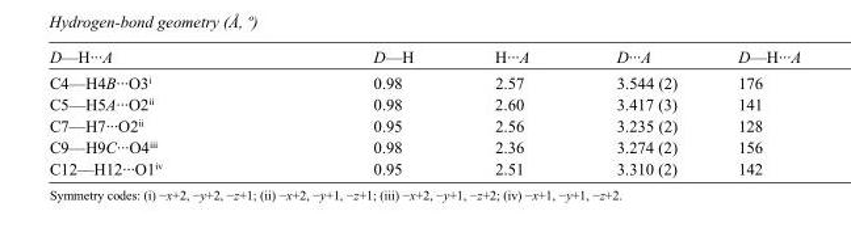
<table><tbody><tr><td>D—H···A</td><td>D—H</td><td>H···A</td><td>D···A</td><td>D—H···A</td></tr><tr><td>C4—H4B···O3<sup>i</sup></td><td>0.98</td><td>2.57</td><td>3.544 (2)</td><td>176</td></tr><tr><td>C5—H5A···O2<sup>ii</sup></td><td>0.98</td><td>2.60</td><td>3.417 (3)</td><td>141</td></tr><tr><td>C7—H7···O2<sup>ii</sup></td><td>0.95</td><td>2.56</td><td>3.235 (2)</td><td>128</td></tr><tr><td>C9—H9C···O4<sup>iii</sup></td><td>0.98</td><td>2.36</td><td>3.274 (2)</td><td>156</td></tr><tr><td>C12—H12···O1<sup>iv</sup></td><td>0.95</td><td>2.51</td><td>3.310 (2)</td><td>142</td></tr></tbody></table>